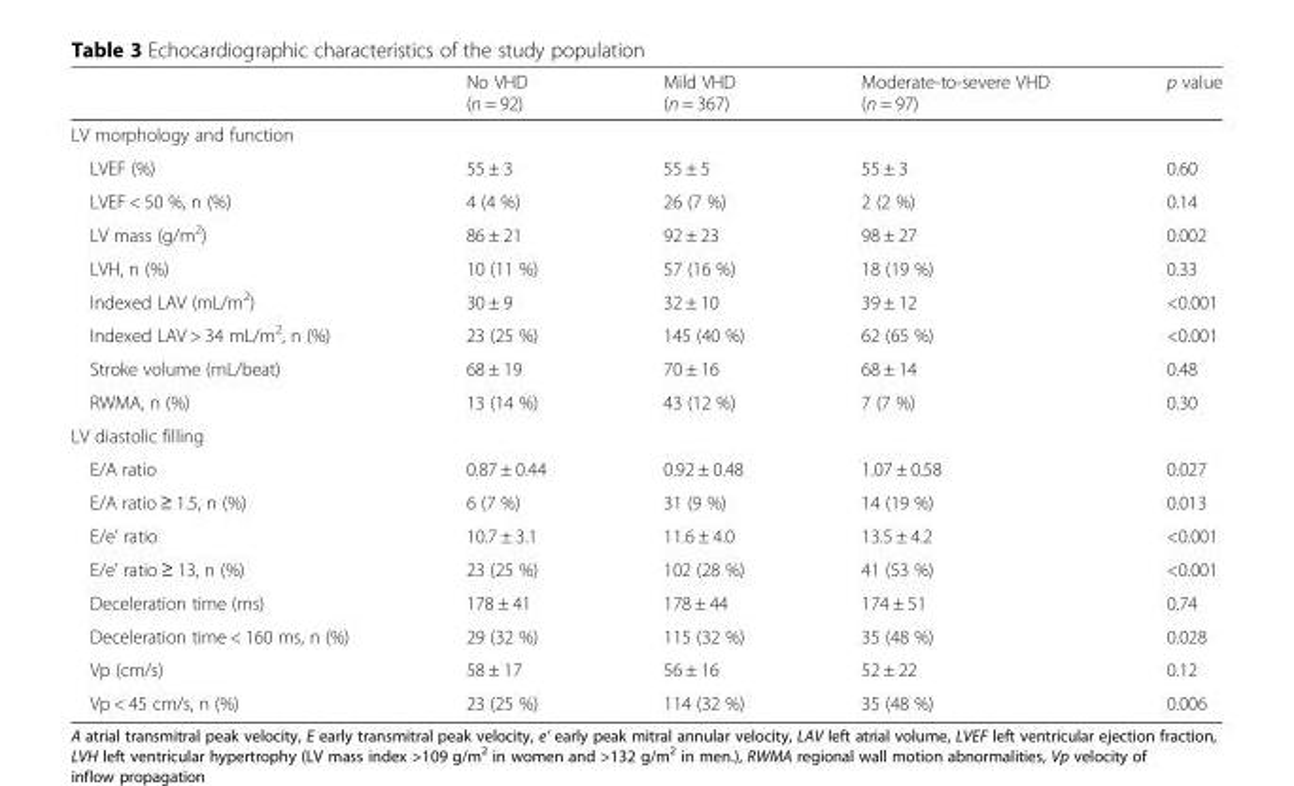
<table><thead><tr><td></td><td>No VHD (n = 92)</td><td>Mild VHD (n = 367)</td><td>Moderate-to-severe VHD (n = 97)</td><td>p value</td></tr></thead><tbody><tr><td colspan="5">LV morphology and function</td></tr><tr><td>LVEF (%)</td><td>55 ± 3</td><td>55 ± 5</td><td>55 ± 3</td><td>0.60</td></tr><tr><td>LVEF &lt; 50 %, n (%)</td><td>4 (4 %)</td><td>26 (7 %)</td><td>2 (2 %)</td><td>0.14</td></tr><tr><td>LV mass (g/m<sup>2</sup>)</td><td>86 ± 21</td><td>92 ± 23</td><td>98 ± 27</td><td>0.002</td></tr><tr><td>LVH, n (%)</td><td>10 (11 %)</td><td>57 (16 %)</td><td>18 (19 %)</td><td>0.33</td></tr><tr><td>Indexed LAV (mL/m<sup>2</sup>)</td><td>30 ± 9</td><td>32 ± 10</td><td>39 ± 12</td><td>&lt;0.001</td></tr><tr><td>Indexed LAV &gt; 34 mL/m<sup>2</sup>, n (%)</td><td>23 (25 %)</td><td>145 (40 %)</td><td>62 (65 %)</td><td>&lt;0.001</td></tr><tr><td>Stroke volume (mL/beat)</td><td>68 ± 19</td><td>70 ± 16</td><td>68 ± 14</td><td>0.48</td></tr><tr><td>RWMA, n (%)</td><td>13 (14 %)</td><td>43 (12 %)</td><td>7 (7 %)</td><td>0.30</td></tr><tr><td colspan="5">LV diastolic filling</td></tr><tr><td>E/A ratio</td><td>0.87 ± 0.44</td><td>0.92 ± 0.48</td><td>1.07 ± 0.58</td><td>0.027</td></tr><tr><td>E/A ratio ≥ 1.5, n (%)</td><td>6 (7 %)</td><td>31 (9 %)</td><td>14 (19 %)</td><td>0.013</td></tr><tr><td>E/e’ ratio</td><td>10.7 ± 3.1</td><td>11.6 ± 4.0</td><td>13.5 ± 4.2</td><td>&lt;0.001</td></tr><tr><td>E/e’ ratio ≥ 13, n (%)</td><td>23 (25 %)</td><td>102 (28 %)</td><td>41 (53 %)</td><td>&lt;0.001</td></tr><tr><td>Deceleration time (ms)</td><td>178 ± 41</td><td>178 ± 44</td><td>174 ± 51</td><td>0.74</td></tr><tr><td>Deceleration time &lt; 160 ms, n (%)</td><td>29 (32 %)</td><td>115 (32 %)</td><td>35 (48 %)</td><td>0.028</td></tr><tr><td>Vp (cm/s)</td><td>58 ± 17</td><td>56 ± 16</td><td>52 ± 22</td><td>0.12</td></tr><tr><td>Vp &lt; 45 cm/s, n (%)</td><td>23 (25 %)</td><td>114 (32 %)</td><td>35 (48 %)</td><td>0.006</td></tr></tbody></table>